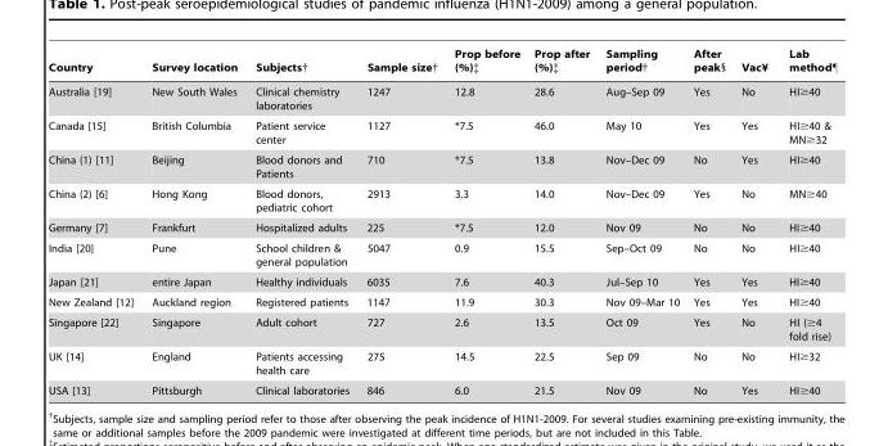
<table><thead><tr><td>Country</td><td>Survey location</td><td>Subjects†</td><td>Sample size†</td><td>Prop before (%)‡</td><td>Prop after (%)‡</td><td>Sampling period†</td><td>After peak§</td><td>Vac¥</td><td>Lab method¶</td></tr></thead><tbody><tr><td>Australia [19]</td><td>New South Wales</td><td>Clinical chemistry laboratories</td><td>1247</td><td>12.8</td><td>28.6</td><td>Aug–Sep 09</td><td>Yes</td><td>No</td><td>HI≥40</td></tr><tr><td>Canada [15]</td><td>British Columbia</td><td>Patient service center</td><td>1127</td><td>*7.5</td><td>46.0</td><td>May 10</td><td>Yes</td><td>Yes</td><td>HI≥40 &amp; MN≥32</td></tr><tr><td>China (1) [11]</td><td>Beijing</td><td>Blood donors and Patients</td><td>710</td><td>*7.5</td><td>13.8</td><td>Nov–Dec 09</td><td>No</td><td>Yes</td><td>HI≥40</td></tr><tr><td>China (2) [6]</td><td>Hong Kong</td><td>Blood donors, pediatric cohort</td><td>2913</td><td>3.3</td><td>14.0</td><td>Nov–Dec 09</td><td>Yes</td><td>No</td><td>MN≥40</td></tr><tr><td>Germany [7]</td><td>Frankfurt</td><td>Hospitalized adults</td><td>225</td><td>*7.5</td><td>12.0</td><td>Nov 09</td><td>No</td><td>No</td><td>HI≥40</td></tr><tr><td>India [20]</td><td>Pune</td><td>School children &amp; general population</td><td>5047</td><td>0.9</td><td>15.5</td><td>Sep–Oct 09</td><td>No</td><td>No</td><td>HI≥40</td></tr><tr><td>Japan [21]</td><td>entire Japan</td><td>Healthy individuals</td><td>6035</td><td>7.6</td><td>40.3</td><td>Jul–Sep 10</td><td>Yes</td><td>Yes</td><td>HI≥40</td></tr><tr><td>New Zealand [12]</td><td>Auckland region</td><td>Registered patients</td><td>1147</td><td>11.9</td><td>30.3</td><td>Nov 09–Mar 10</td><td>Yes</td><td>Yes</td><td>HI≥40</td></tr><tr><td>Singapore [22]</td><td>Singapore</td><td>Adult cohort</td><td>727</td><td>2.6</td><td>13.5</td><td>Oct 09</td><td>Yes</td><td>No</td><td>HI (≥4 fold rise)</td></tr><tr><td>UK [14]</td><td>England</td><td>Patients accessing health care</td><td>275</td><td>14.5</td><td>22.5</td><td>Sep 09</td><td>No</td><td>No</td><td>HI≥32</td></tr><tr><td>USA [13]</td><td>Pittsburgh</td><td>Clinical laboratories</td><td>846</td><td>6.0</td><td>21.5</td><td>Nov 09</td><td>No</td><td>Yes</td><td>HI≥40</td></tr></tbody></table>